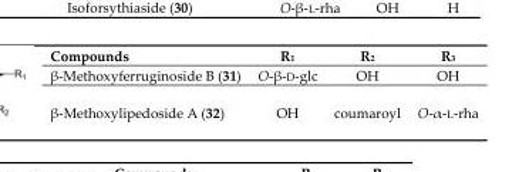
<table><tbody><tr><td>Compounds</td><td>R<sub>1</sub></td><td>R<sub>2</sub></td><td>R<sub>3</sub></td></tr><tr><td>β-Methoxyferruginoside B (31)</td><td>O-β-D-glc</td><td>OH</td><td>OH</td></tr><tr><td>β-Methoxylipedoside A (32)</td><td>OH</td><td>coumaroyl</td><td>O-α-L-rha</td></tr></tbody></table>